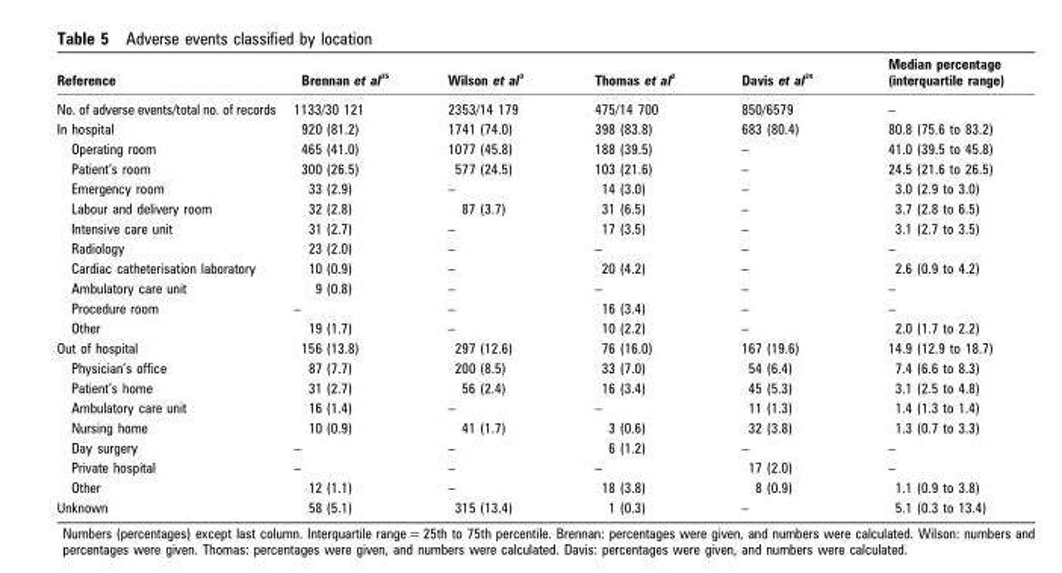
<table><thead><tr><td>Reference</td><td>Brennan et al <sup>25</sup></td><td>Wilson et al <sup>3</sup></td><td>Thomas et al <sup>2</sup></td><td>Davis et al <sup>24</sup></td><td>Median percentage (interquartile range)</td></tr></thead><tbody><tr><td>No. of adverse events/total no. of records</td><td>1133/30 121</td><td>2353/14 179</td><td>475/14 700</td><td>850/6579</td><td>–</td></tr><tr><td>In hospital</td><td>920 (81.2)</td><td>1741 (74.0)</td><td>398 (83.8)</td><td>683 (80.4)</td><td>80.8 (75.6 to 83.2)</td></tr><tr><td>Operating room</td><td>465 (41.0)</td><td>1077 (45.8)</td><td>188 (39.5)</td><td>–</td><td>41.0 (39.5 to 45.8)</td></tr><tr><td>Patient’s room</td><td>300 (26.5)</td><td>577 (24.5)</td><td>103 (21.6)</td><td>–</td><td>24.5 (21.6 to 26.5)</td></tr><tr><td>Emergency room</td><td>33 (2.9)</td><td>–</td><td>14 (3.0)</td><td>–</td><td>3.0 (2.9 to 3.0)</td></tr><tr><td>Labour and delivery room</td><td>32 (2.8)</td><td>87 (3.7)</td><td>31 (6.5)</td><td>–</td><td>3.7 (2.8 to 6.5)</td></tr><tr><td>Intensive care unit</td><td>31 (2.7)</td><td>–</td><td>17 (3.5)</td><td>–</td><td>3.1 (2.7 to 3.5)</td></tr><tr><td>Radiology</td><td>23 (2.0)</td><td>–</td><td>–</td><td>–</td><td>–</td></tr><tr><td>Cardiac catheterisation laboratory</td><td>10 (0.9)</td><td>–</td><td>20 (4.2)</td><td>–</td><td>2.6 (0.9 to 4.2)</td></tr><tr><td>Ambulatory care unit</td><td>9 (0.8)</td><td>–</td><td>–</td><td>–</td><td>–</td></tr><tr><td>Procedure room</td><td>–</td><td>–</td><td>16 (3.4)</td><td>–</td><td>–</td></tr><tr><td>Other</td><td>19 (1.7)</td><td>–</td><td>10 (2.2)</td><td>–</td><td>2.0 (1.7 to 2.2)</td></tr><tr><td>Out of hospital</td><td>156 (13.8)</td><td>297 (12.6)</td><td>76 (16.0)</td><td>167 (19.6)</td><td>14.9 (12.9 to 18.7)</td></tr><tr><td>Physician’s office</td><td>87 (7.7)</td><td>200 (8.5)</td><td>33 (7.0)</td><td>54 (6.4)</td><td>7.4 (6.6 to 8.3)</td></tr><tr><td>Patient’s home</td><td>31 (2.7)</td><td>56 (2.4)</td><td>16 (3.4)</td><td>45 (5.3)</td><td>3.1 (2.5 to 4.8)</td></tr><tr><td>Ambulatory care unit</td><td>16 (1.4)</td><td>–</td><td>–</td><td>11 (1.3)</td><td>1.4 (1.3 to 1.4)</td></tr><tr><td>Nursing home</td><td>10 (0.9)</td><td>41 (1.7)</td><td>3 (0.6)</td><td>32 (3.8)</td><td>1.3 (0.7 to 3.3)</td></tr><tr><td>Day surgery</td><td>–</td><td>–</td><td>6 (1.2)</td><td>–</td><td>–</td></tr><tr><td>Private hospital</td><td>–</td><td>–</td><td>–</td><td>17 (2.0)</td><td>–</td></tr><tr><td>Other</td><td>12 (1.1)</td><td>–</td><td>18 (3.8)</td><td>8 (0.9)</td><td>1.1 (0.9 to 3.8)</td></tr><tr><td>Unknown</td><td>58 (5.1)</td><td>315 (13.4)</td><td>1 (0.3)</td><td>–</td><td>5.1 (0.3 to 13.4)</td></tr></tbody></table>